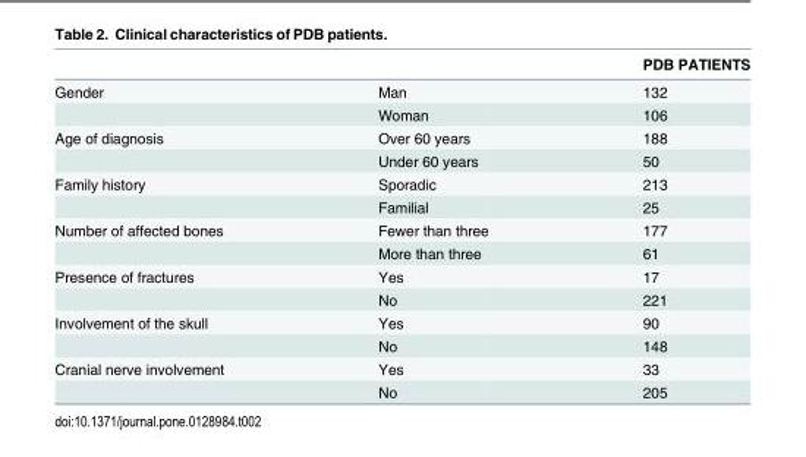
<table><thead><tr><td></td><td></td><td>PDB PATIENTS</td></tr></thead><tbody><tr><td rowspan="2">Gender</td><td>Man</td><td>132</td></tr><tr><td>Woman</td><td>106</td></tr><tr><td rowspan="2">Age of diagnosis</td><td>Over 60 years</td><td>188</td></tr><tr><td>Under 60 years</td><td>50</td></tr><tr><td rowspan="2">Family history</td><td>Sporadic</td><td>213</td></tr><tr><td>Familial</td><td>25</td></tr><tr><td rowspan="2">Number of affected bones</td><td>Fewer than three</td><td>177</td></tr><tr><td>More than three</td><td>61</td></tr><tr><td rowspan="2">Presence of fractures</td><td>Yes</td><td>17</td></tr><tr><td>No</td><td>221</td></tr><tr><td rowspan="2">Involvement of the skull</td><td>Yes</td><td>90</td></tr><tr><td>No</td><td>148</td></tr><tr><td rowspan="2">Cranial nerve involvement</td><td>Yes</td><td>33</td></tr><tr><td>No</td><td>205</td></tr></tbody></table>